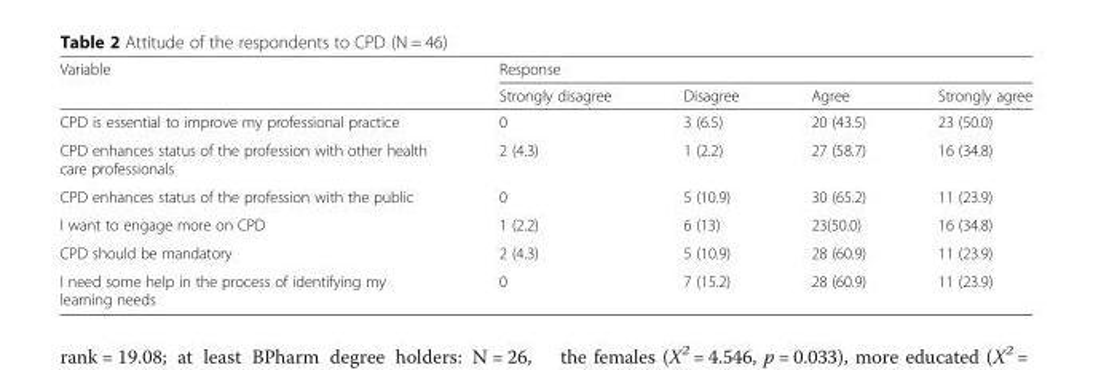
<table><thead><tr><td rowspan="2">Variable</td><td colspan="4">Response</td></tr><tr><td>Strongly disagree</td><td>Disagree</td><td>Agree</td><td>Strongly agree</td></tr></thead><tbody><tr><td>CPD is essential to improve my professional practice</td><td>0</td><td>3 (6.5)</td><td>20 (43.5)</td><td>23 (50.0)</td></tr><tr><td>CPD enhances status of the profession with other health care professionals</td><td>2 (4.3)</td><td>1 (2.2)</td><td>27 (58.7)</td><td>16 (34.8)</td></tr><tr><td>CPD enhances status of the profession with the public</td><td>0</td><td>5 (10.9)</td><td>30 (65.2)</td><td>11 (23.9)</td></tr><tr><td>I want to engage more on CPD</td><td>1 (2.2)</td><td>6 (13)</td><td>23(50.0)</td><td>16 (34.8)</td></tr><tr><td>CPD should be mandatory</td><td>2 (4.3)</td><td>5 (10.9)</td><td>28 (60.9)</td><td>11 (23.9)</td></tr><tr><td>I need some help in the process of identifying my learning needs</td><td>0</td><td>7 (15.2)</td><td>28 (60.9)</td><td>11 (23.9)</td></tr></tbody></table>